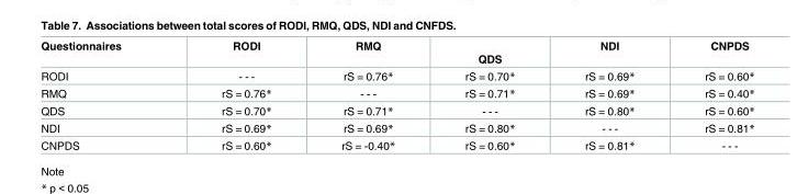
<table><thead><tr><td>Questionnaires</td><td>RODI</td><td>RMQ</td><td>QDS</td><td>NDI</td><td>CNPDS</td></tr></thead><tbody><tr><td>RODI</td><td>- - -</td><td>rS = 0.76*</td><td>rS = 0.70*</td><td>rS = 0.69*</td><td>rS = 0.60*</td></tr><tr><td>RMQ</td><td>rS = 0.76*</td><td>- - -</td><td>rS = 0.71*</td><td>rS = 0.69*</td><td>rS = 0.40*</td></tr><tr><td>QDS</td><td>rS = 0.70*</td><td>rS = 0.71*</td><td>- - -</td><td>rS = 0.80*</td><td>rS = 0.60*</td></tr><tr><td>NDI</td><td>rS = 0.69*</td><td>rS = 0.69*</td><td>rS = 0.80*</td><td>- - -</td><td>rS = 0.81*</td></tr><tr><td>CNPDS</td><td>rS = 0.60*</td><td>rS = -0.40*</td><td>rS = 0.60*</td><td>rS = 0.81*</td><td>- - -</td></tr></tbody></table>